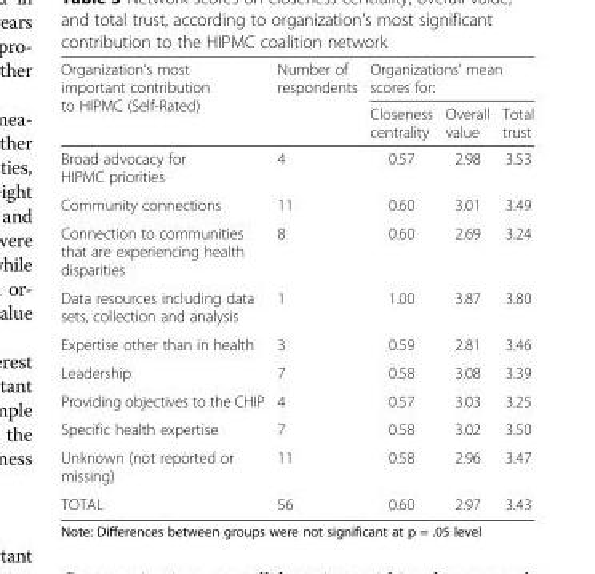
<table><thead><tr><td rowspan="2">Organization’s most important contribution to HIPMC (Self-Rated)</td><td rowspan="2">Number of respondents</td><td colspan="3">Organizations’ mean scores for:</td></tr><tr><td>Closeness centrality</td><td>Overall value</td><td>Total trust</td></tr></thead><tbody><tr><td>Broad advocacy for HIPMC priorities</td><td>4</td><td>0.57</td><td>2.98</td><td>3.53</td></tr><tr><td>Community connections</td><td>11</td><td>0.60</td><td>3.01</td><td>3.49</td></tr><tr><td>Connection to communities that are experiencing health disparities</td><td>8</td><td>0.60</td><td>2.69</td><td>3.24</td></tr><tr><td>Data resources including data sets, collection and analysis</td><td>1</td><td>1.00</td><td>3.87</td><td>3.80</td></tr><tr><td>Expertise other than in health</td><td>3</td><td>0.59</td><td>2.81</td><td>3.46</td></tr><tr><td>Leadership</td><td>7</td><td>0.58</td><td>3.08</td><td>3.39</td></tr><tr><td>Providing objectives to the CHIP</td><td>4</td><td>0.57</td><td>3.03</td><td>3.25</td></tr><tr><td>Specific health expertise</td><td>7</td><td>0.58</td><td>3.02</td><td>3.50</td></tr><tr><td>Unknown (not reported or missing)</td><td>11</td><td>0.58</td><td>2.96</td><td>3.47</td></tr><tr><td>TOTAL</td><td>56</td><td>0.60</td><td>2.97</td><td>3.43</td></tr></tbody></table>